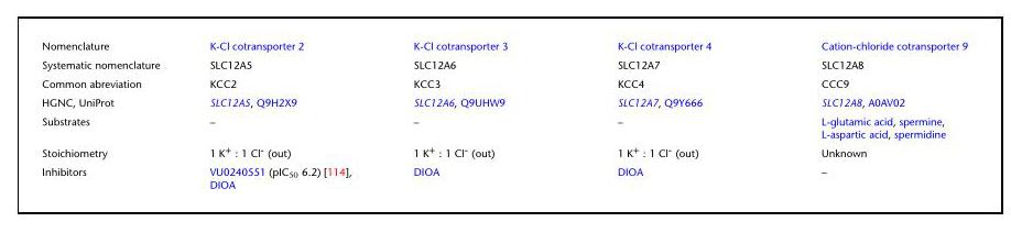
<table><tbody><tr><td>Nomenclature</td><td>K-Cl cotransporter 2</td><td>K-Cl cotransporter 3</td><td>K-Cl cotransporter 4</td><td>Cation-chloride cotransporter 9</td></tr><tr><td>Systematic nomenclature</td><td>SLC12A5</td><td>SLC12A6</td><td>SLC12A7</td><td>SLC12A8</td></tr><tr><td>Common abreviation</td><td>KCC2</td><td>KCC3</td><td>KCC4</td><td>CCC9</td></tr><tr><td>HGNC, UniProt</td><td>SLC12A5, Q9H2X9</td><td>SLC12A6, Q9UHW9</td><td>SLC12A7, Q9Y666</td><td>SLC12A8, A0AV02</td></tr><tr><td>Substrates</td><td>–</td><td>–</td><td>–</td><td>L-glutamic acid, spermine, L-aspartic acid, spermidine</td></tr><tr><td>Stoichiometry</td><td>1 K<sup>+</sup> : 1 Cl<sup>-</sup> (out)</td><td>1 K<sup>+</sup> : 1 Cl<sup>-</sup> (out)</td><td>1 K<sup>+</sup> : 1 Cl<sup>-</sup> (out)</td><td>Unknown</td></tr><tr><td>Inhibitors</td><td>VU0240551 (pIC<sub>50</sub> 6.2) [114], DIOA</td><td>DIOA</td><td>DIOA</td><td>–</td></tr></tbody></table>